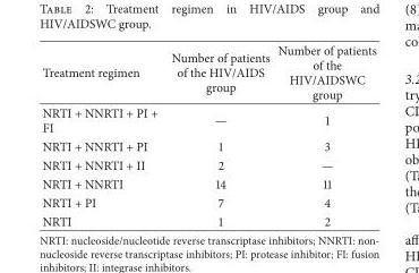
<table><thead><tr><td>Treatment regimen</td><td>Number of patients of the HIV/AIDS group</td><td>Number of patients of the HIV/AIDSWC group</td></tr></thead><tbody><tr><td>NRTI + NNRTI + PI + FI</td><td>—</td><td>1</td></tr><tr><td>NRTI + NNRTI + PI</td><td>1</td><td>3</td></tr><tr><td>NRTI + NNRTI + II</td><td>2</td><td>—</td></tr><tr><td>NRTI + NNRTI</td><td>14</td><td>11</td></tr><tr><td>NRTI + PI</td><td>7</td><td>4</td></tr><tr><td>NRTI</td><td>1</td><td>2</td></tr></tbody></table>